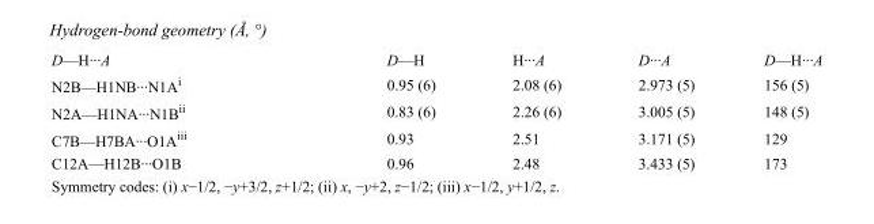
<table><tbody><tr><td>D—H···A</td><td>D—H</td><td>H···A</td><td>D···A</td><td>D—H···A</td></tr><tr><td>N2B—H1NB···N1A<sup>i</sup></td><td>0.95 (6)</td><td>2.08 (6)</td><td>2.973 (5)</td><td>156 (5)</td></tr><tr><td>N2A—H1NA···N1B<sup>ii</sup></td><td>0.83 (6)</td><td>2.26 (6)</td><td>3.005 (5)</td><td>148 (5)</td></tr><tr><td>C7B—H7BA···O1A<sup>iii</sup></td><td>0.93</td><td>2.51</td><td>3.171 (5)</td><td>129</td></tr><tr><td>C12A—H12B···O1B</td><td>0.96</td><td>2.48</td><td>3.433 (5)</td><td>173</td></tr></tbody></table>